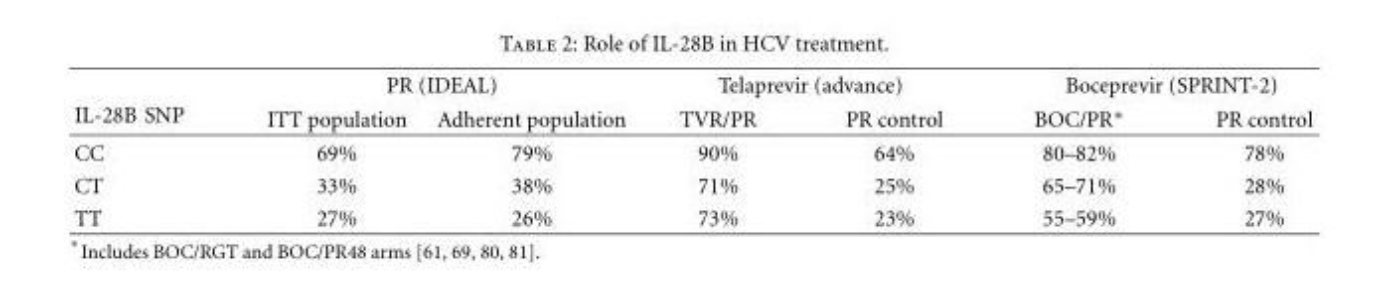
<table><thead><tr><td rowspan="2">IL-28B SNP</td><td colspan="2">PR (IDEAL)</td><td colspan="2">Telaprevir (advance)</td><td colspan="2">Boceprevir (SPRINT-2)</td></tr><tr><td>ITT population</td><td>Adherent population</td><td>TVR/PR</td><td>PR control</td><td>BOC/PR∗</td><td>PR control</td></tr></thead><tbody><tr><td>CC</td><td>69%</td><td>79%</td><td>90%</td><td>64%</td><td>80–82%</td><td>78%</td></tr><tr><td>CT</td><td>33%</td><td>38%</td><td>71%</td><td>25%</td><td>65–71%</td><td>28%</td></tr><tr><td>TT</td><td>27%</td><td>26%</td><td>73%</td><td>23%</td><td>55–59%</td><td>27%</td></tr></tbody></table>